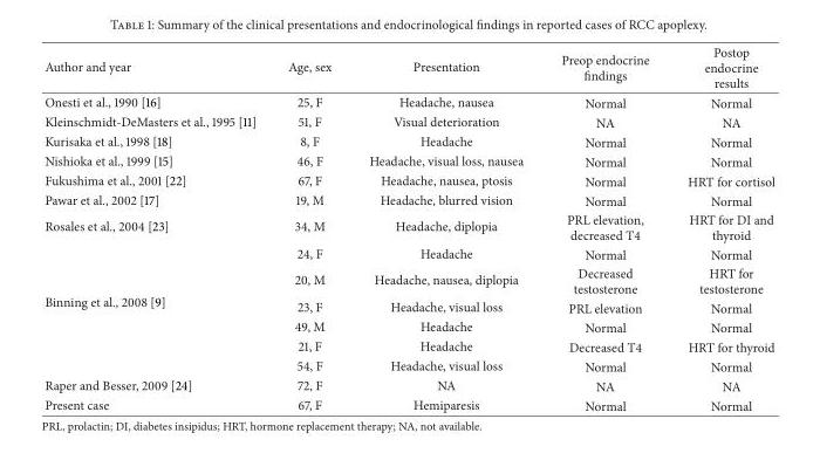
<table><thead><tr><td>Author and year</td><td>Age, sex</td><td>Presentation</td><td>Preop endocrine findings</td><td>Postop endocrine results</td></tr></thead><tbody><tr><td>Onesti et al., 1990 [16]</td><td>25, F</td><td>Headache, nausea</td><td>Normal</td><td>Normal</td></tr><tr><td>Kleinschmidt-DeMasters et al., 1995 [11]</td><td>51, F</td><td>Visual deterioration</td><td>NA</td><td>NA</td></tr><tr><td>Kurisaka et al., 1998 [18]</td><td>8, F</td><td>Headache</td><td>Normal</td><td>Normal</td></tr><tr><td>Nishioka et al., 1999 [15]</td><td>46, F</td><td>Headache, visual loss, nausea</td><td>Normal</td><td>Normal</td></tr><tr><td>Fukushima et al., 2001 [22]</td><td>67, F</td><td>Headache, nausea, ptosis</td><td>Normal</td><td>HRT for cortisol</td></tr><tr><td>Pawar et al., 2002 [17]</td><td>19, M</td><td>Headache, blurred vision</td><td>Normal</td><td>Normal</td></tr><tr><td>Rosales et al., 2004 [23]</td><td>34, M</td><td>Headache, diplopia</td><td>PRL elevation, decreased T4</td><td>HRT for DI and thyroid</td></tr><tr><td rowspan="6">Binning et al., 2008 [9]</td><td>24, F</td><td>Headache</td><td>Normal</td><td>Normal</td></tr><tr><td>20, M</td><td>Headache, nausea, diplopia</td><td>Decreased testosterone</td><td>HRT for testosterone</td></tr><tr><td>23, F</td><td>Headache, visual loss</td><td>PRL elevation</td><td>Normal</td></tr><tr><td>49, M</td><td>Headache</td><td>Normal</td><td>Normal</td></tr><tr><td>21, F</td><td>Headache</td><td>Decreased T4</td><td>HRT for thyroid</td></tr><tr><td>54, F</td><td>Headache, visual loss</td><td>Normal</td><td>Normal</td></tr><tr><td>Raper and Besser, 2009 [24]</td><td>72, F</td><td>NA</td><td>NA</td><td>NA</td></tr><tr><td>Present case</td><td>67, F</td><td>Hemiparesis</td><td>Normal</td><td>Normal</td></tr></tbody></table>